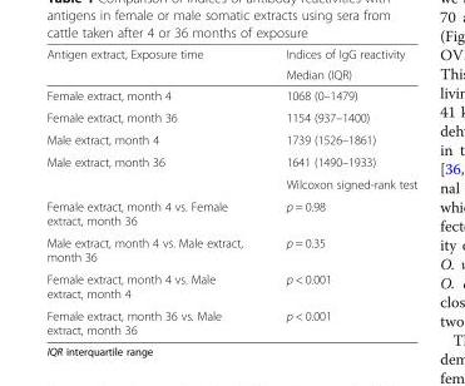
<table><thead><tr><td rowspan="2">Antigen extract, Exposure time</td><td rowspan="2">Indices of IgG reactivity Median (IQR)</td></tr><tr></tr></thead><tbody><tr><td>Female extract, month 4</td><td>1068 (0–1479)</td></tr><tr><td>Female extract, month 36</td><td>1154 (937–1400)</td></tr><tr><td>Male extract, month 4</td><td>1739 (1526–1861)</td></tr><tr><td rowspan="2">Male extract, month 36</td><td>1641 (1490–1933)</td></tr><tr><td>Wilcoxon signed-rank test</td></tr><tr><td>Female extract, month 4 vs. Female extract, month 36</td><td>p = 0.98</td></tr><tr><td>Male extract, month 4 vs. Male extract, month 36</td><td>p = 0.35</td></tr><tr><td>Female extract, month 4 vs. Male extract, month 4</td><td>p &lt; 0.001</td></tr><tr><td>Female extract, month 36 vs. Male extract, month 36</td><td>p &lt; 0.001</td></tr></tbody></table>